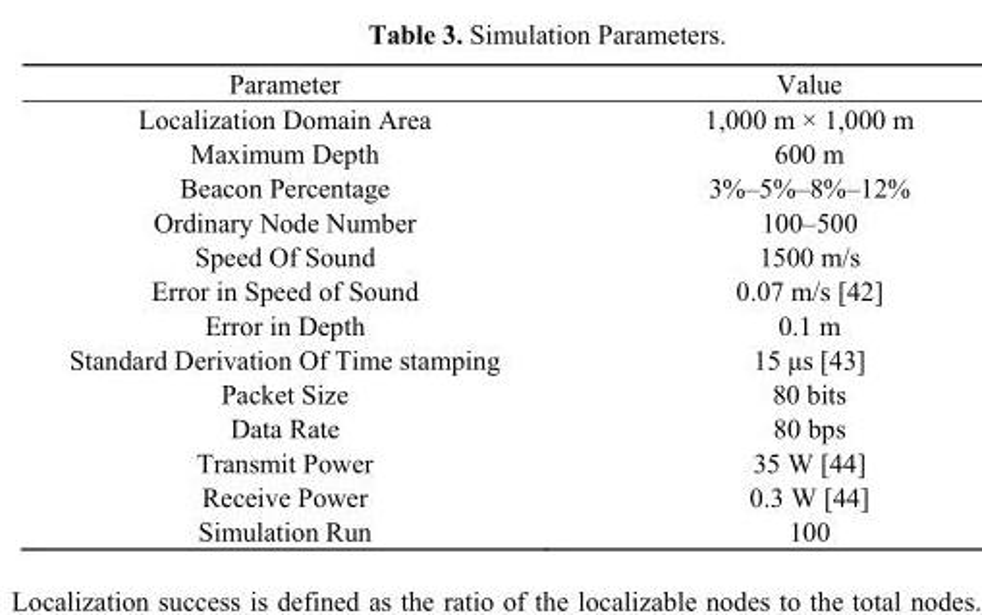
<table><thead><tr><td>Parameter</td><td>Value</td></tr></thead><tbody><tr><td>Localization Domain Area</td><td>1,000 m × 1,000 m</td></tr><tr><td>Maximum Depth</td><td>600 m</td></tr><tr><td>Beacon Percentage</td><td>3%–5%–8%–12%</td></tr><tr><td>Ordinary Node Number</td><td>100–500</td></tr><tr><td>Speed Of Sound</td><td>1500 m/s</td></tr><tr><td>Error in Speed of Sound</td><td>0.07 m/s [42]</td></tr><tr><td>Error in Depth</td><td>0.1 m</td></tr><tr><td>Standard Derivation Of Time stamping</td><td>15 μs [43]</td></tr><tr><td>Packet Size</td><td>80 bits</td></tr><tr><td>Data Rate</td><td>80 bps</td></tr><tr><td>Transmit Power</td><td>35 W [44]</td></tr><tr><td>Receive Power</td><td>0.3 W [44]</td></tr><tr><td>Simulation Run</td><td>100</td></tr></tbody></table>